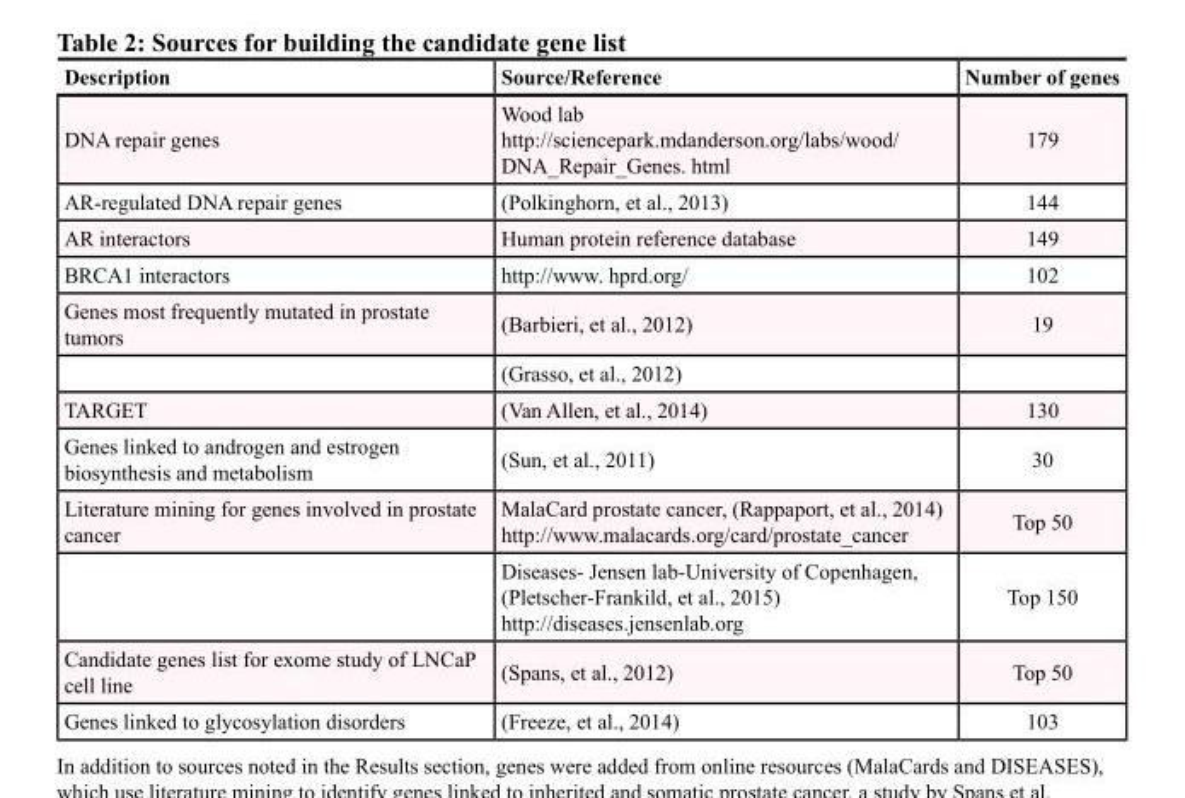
<table><thead><tr><td>Description</td><td>Source/Reference</td><td>Number of genes</td></tr></thead><tbody><tr><td>DNA repair genes</td><td>Wood lab http://sciencepark.mdanderson.org/labs/wood/ DNA_Repair_Genes. html</td><td>179</td></tr><tr><td>AR-regulated DNA repair genes</td><td>(Polkinghorn, et al., 2013)</td><td>144</td></tr><tr><td>AR interactors</td><td>Human protein reference database</td><td>149</td></tr><tr><td>BRCA1 interactors</td><td>http://www. hprd.org/</td><td>102</td></tr><tr><td rowspan="2">Genes most frequently mutated in prostate tumors</td><td>(Barbieri, et al., 2012)</td><td>19</td></tr><tr><td>(Grasso, et al., 2012)</td><td></td></tr><tr><td>TARGET</td><td>(Van Allen, et al., 2014)</td><td>130</td></tr><tr><td>Genes linked to androgen and estrogen biosynthesis and metabolism</td><td>(Sun, et al., 2011)</td><td>30</td></tr><tr><td rowspan="2">Literature mining for genes involved in prostate cancer</td><td>MalaCard prostate cancer, (Rappaport, et al., 2014) http://www.malacards.org/card/prostate_cancer</td><td>Top 50</td></tr><tr><td>Diseases- Jensen lab-University of Copenhagen, (Pletscher-Frankild, et al., 2015) http://diseases.jensenlab.org</td><td>Top 150</td></tr><tr><td>Candidate genes list for exome study of LNCaP cell line</td><td>(Spans, et al., 2012)</td><td>Top 50</td></tr><tr><td>Genes linked to glycosylation disorders</td><td>(Freeze, et al., 2014)</td><td>103</td></tr></tbody></table>